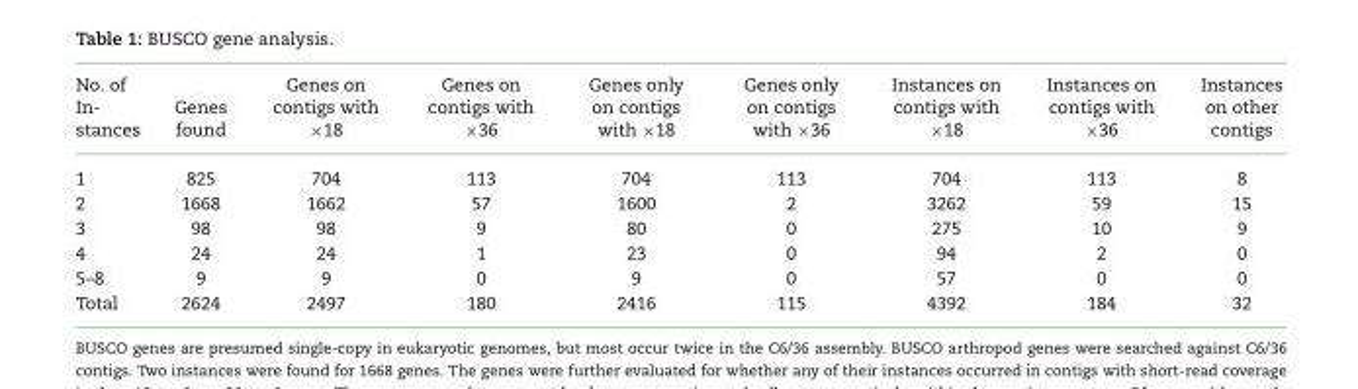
<table><thead><tr><td>No. of In- stances</td><td>Genes found</td><td>Genes on contigs with ×18</td><td>Genes on contigs with ×36</td><td>Genes only on contigs with ×18</td><td>Genes only on contigs with ×36</td><td>Instances on contigs with ×18</td><td>Instances on contigs with ×36</td><td>Instances on other contigs</td></tr></thead><tbody><tr><td>1</td><td>825</td><td>704</td><td>113</td><td>704</td><td>113</td><td>704</td><td>113</td><td>8</td></tr><tr><td>2</td><td>1668</td><td>1662</td><td>57</td><td>1600</td><td>2</td><td>3262</td><td>59</td><td>15</td></tr><tr><td>3</td><td>98</td><td>98</td><td>9</td><td>80</td><td>0</td><td>275</td><td>10</td><td>9</td></tr><tr><td>4</td><td>24</td><td>24</td><td>1</td><td>23</td><td>0</td><td>94</td><td>2</td><td>0</td></tr><tr><td>5–8</td><td>9</td><td>9</td><td>0</td><td>9</td><td>0</td><td>57</td><td>0</td><td>0</td></tr><tr><td>Total</td><td>2624</td><td>2497</td><td>180</td><td>2416</td><td>115</td><td>4392</td><td>184</td><td>32</td></tr></tbody></table>